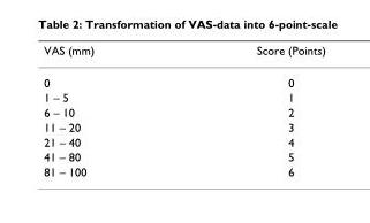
<table><thead><tr><td>VAS (mm)</td><td>Score (Points)</td></tr></thead><tbody><tr><td>0</td><td>0</td></tr><tr><td>1 – 5</td><td>1</td></tr><tr><td>6 – 10</td><td>2</td></tr><tr><td>11 – 20</td><td>3</td></tr><tr><td>21 – 40</td><td>4</td></tr><tr><td>41 – 80</td><td>5</td></tr><tr><td>81 – 100</td><td>6</td></tr></tbody></table>